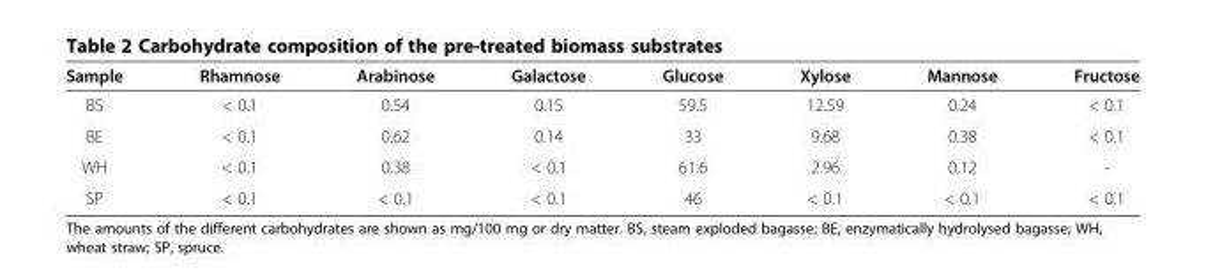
<table><thead><tr><td>Sample</td><td>Rhamnose</td><td>Arabinose</td><td>Galactose</td><td>Glucose</td><td>Xylose</td><td>Mannose</td><td>Fructose</td></tr></thead><tbody><tr><td>BS</td><td>&lt; 0.1</td><td>0.54</td><td>0.15</td><td>59.5</td><td>12.59</td><td>0.24</td><td>&lt; 0.1</td></tr><tr><td>BE</td><td>&lt; 0.1</td><td>0.62</td><td>0.14</td><td>33</td><td>9.68</td><td>0.38</td><td>&lt; 0.1</td></tr><tr><td>WH</td><td>&lt; 0.1</td><td>0.38</td><td>&lt; 0.1</td><td>61.6</td><td>2.96</td><td>0.12</td><td>-</td></tr><tr><td>SP</td><td>&lt; 0.1</td><td>&lt; 0.1</td><td>&lt; 0.1</td><td>46</td><td>&lt; 0.1</td><td>&lt; 0.1</td><td>&lt; 0.1</td></tr></tbody></table>